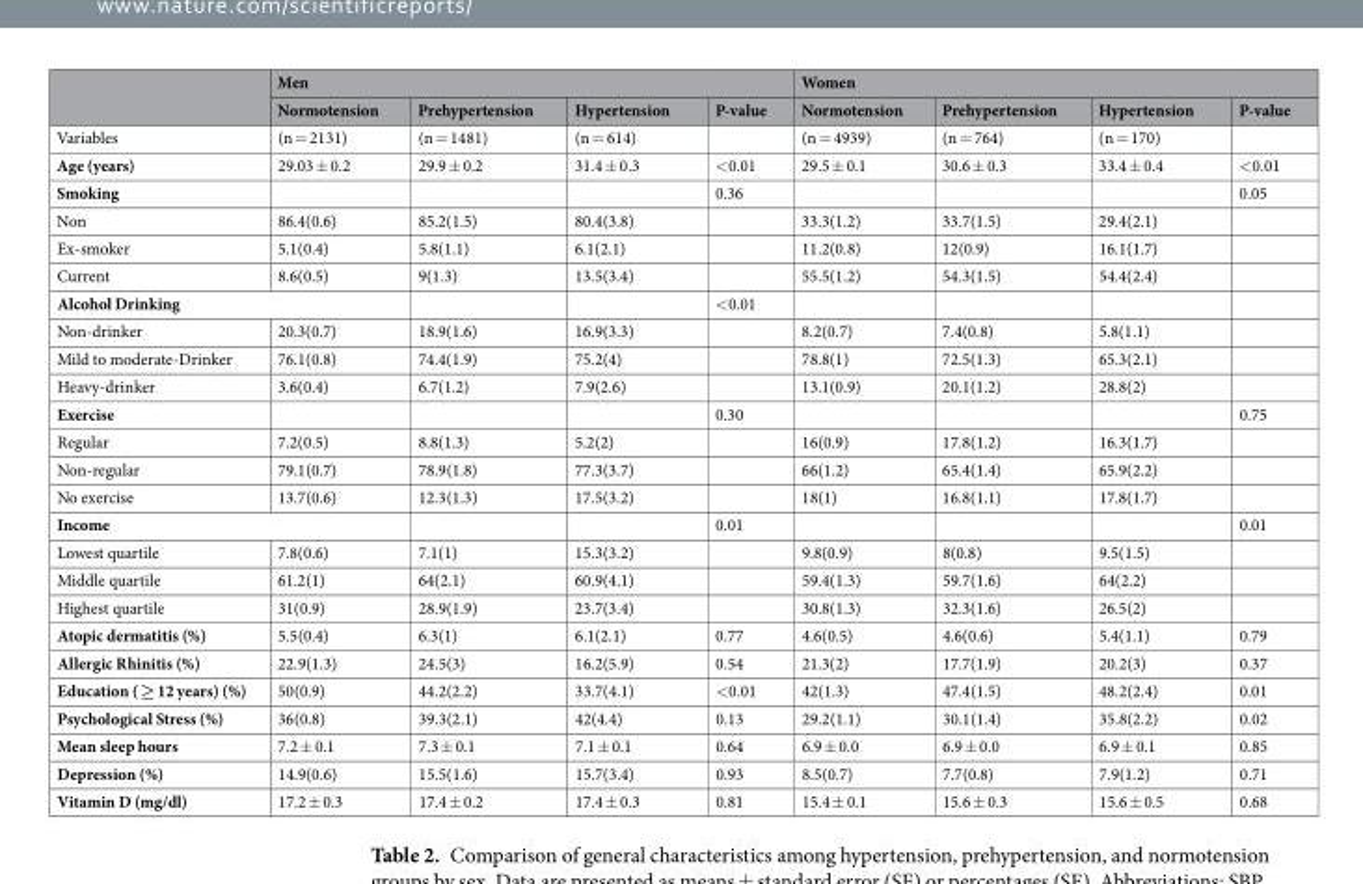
<table><thead><tr><td rowspan="2"></td><td colspan="4">Men</td><td colspan="4">Women</td></tr><tr><td>Normotension</td><td>Prehypertension</td><td>Hypertension</td><td>P-value</td><td>Normotension</td><td>Prehypertension</td><td>Hypertension</td><td>P-value</td></tr></thead><tbody><tr><td>Variables</td><td>(n = 2131)</td><td>(n = 1481)</td><td>(n = 614)</td><td></td><td>(n = 4939)</td><td>(n = 764)</td><td>(n = 170)</td><td></td></tr><tr><td>Age (years)</td><td>29.03 ± 0.2</td><td>29.9 ± 0.2</td><td>31.4 ± 0.3</td><td>&lt;0.01</td><td>29.5 ± 0.1</td><td>30.6 ± 0.3</td><td>33.4 ± 0.4</td><td>&lt;0.01</td></tr><tr><td>Smoking</td><td></td><td></td><td></td><td>0.36</td><td></td><td></td><td></td><td>0.05</td></tr><tr><td>Non</td><td>86.4(0.6)</td><td>85.2(1.5)</td><td>80.4(3.8)</td><td></td><td>33.3(1.2)</td><td>33.7(1.5)</td><td>29.4(2.1)</td><td></td></tr><tr><td>Ex-smoker</td><td>5.1(0.4)</td><td>5.8(1.1)</td><td>6.1(2.1)</td><td></td><td>11.2(0.8)</td><td>12(0.9)</td><td>16.1(1.7)</td><td></td></tr><tr><td>Current</td><td>8.6(0.5)</td><td>9(1.3)</td><td>13.5(3.4)</td><td></td><td>55.5(1.2)</td><td>54.3(1.5)</td><td>54.4(2.4)</td><td></td></tr><tr><td colspan="2">Alcohol Drinking</td><td></td><td></td><td>&lt;0.01</td><td></td><td></td><td></td><td></td></tr><tr><td>Non-drinker</td><td>20.3(0.7)</td><td>18.9(1.6)</td><td>16.9(3.3)</td><td></td><td>8.2(0.7)</td><td>7.4(0.8)</td><td>5.8(1.1)</td><td></td></tr><tr><td>Mild to moderate-Drinker</td><td>76.1(0.8)</td><td>74.4(1.9)</td><td>75.2(4)</td><td></td><td>78.8(1)</td><td>72.5(1.3)</td><td>65.3(2.1)</td><td></td></tr><tr><td>Heavy-drinker</td><td>3.6(0.4)</td><td>6.7(1.2)</td><td>7.9(2.6)</td><td></td><td>13.1(0.9)</td><td>20.1(1.2)</td><td>28.8(2)</td><td></td></tr><tr><td>Exercise</td><td></td><td></td><td></td><td>0.30</td><td></td><td></td><td></td><td>0.75</td></tr><tr><td>Regular</td><td>7.2(0.5)</td><td>8.8(1.3)</td><td>5.2(2)</td><td></td><td>16(0.9)</td><td>17.8(1.2)</td><td>16.3(1.7)</td><td></td></tr><tr><td>Non-regular</td><td>79.1(0.7)</td><td>78.9(1.8)</td><td>77.3(3.7)</td><td></td><td>66(1.2)</td><td>65.4(1.4)</td><td>65.9(2.2)</td><td></td></tr><tr><td>No exercise</td><td>13.7(0.6)</td><td>12.3(1.3)</td><td>17.5(3.2)</td><td></td><td>18(1)</td><td>16.8(1.1)</td><td>17.8(1.7)</td><td></td></tr><tr><td colspan="2">Income</td><td></td><td></td><td>0.01</td><td></td><td></td><td></td><td>0.01</td></tr><tr><td>Lowest quartile</td><td>7.8(0.6)</td><td>7.1(1)</td><td>15.3(3.2)</td><td></td><td>9.8(0.9)</td><td>8(0.8)</td><td>9.5(1.5)</td><td></td></tr><tr><td>Middle quartile</td><td>61.2(1)</td><td>64(2.1)</td><td>60.9(4.1)</td><td></td><td>59.4(1.3)</td><td>59.7(1.6)</td><td>64(2.2)</td><td></td></tr><tr><td>Highest quartile</td><td>31(0.9)</td><td>28.9(1.9)</td><td>23.7(3.4)</td><td></td><td>30.8(1.3)</td><td>32.3(1.6)</td><td>26.5(2)</td><td></td></tr><tr><td>Atopic dermatitis (%)</td><td>5.5(0.4)</td><td>6.3(1)</td><td>6.1(2.1)</td><td>0.77</td><td>4.6(0.5)</td><td>4.6(0.6)</td><td>5.4(1.1)</td><td>0.79</td></tr><tr><td>Allergic Rhinitis (%)</td><td>22.9(1.3)</td><td>24.5(3)</td><td>16.2(5.9)</td><td>0.54</td><td>21.3(2)</td><td>17.7(1.9)</td><td>20.2(3)</td><td>0.37</td></tr><tr><td>Education ( ≥ 12 years) (%)</td><td>50(0.9)</td><td>44.2(2.2)</td><td>33.7(4.1)</td><td>&lt;0.01</td><td>42(1.3)</td><td>47.4(1.5)</td><td>48.2(2.4)</td><td>0.01</td></tr><tr><td>Psychological Stress (%)</td><td>36(0.8)</td><td>39.3(2.1)</td><td>42(4.4)</td><td>0.13</td><td>29.2(1.1)</td><td>30.1(1.4)</td><td>35.8(2.2)</td><td>0.02</td></tr><tr><td>Mean sleep hours</td><td>7.2 ± 0.1</td><td>7.3 ± 0.1</td><td>7.1 ± 0.1</td><td>0.64</td><td>6.9 ± 0.0</td><td>6.9 ± 0.0</td><td>6.9 ± 0.1</td><td>0.85</td></tr><tr><td>Depression (%)</td><td>14.9(0.6)</td><td>15.5(1.6)</td><td>15.7(3.4)</td><td>0.93</td><td>8.5(0.7)</td><td>7.7(0.8)</td><td>7.9(1.2)</td><td>0.71</td></tr><tr><td>Vitamin D (mg/dl)</td><td>17.2 ± 0.3</td><td>17.4 ± 0.2</td><td>17.4 ± 0.3</td><td>0.81</td><td>15.4 ± 0.1</td><td>15.6 ± 0.3</td><td>15.6 ± 0.5</td><td>0.68</td></tr></tbody></table>